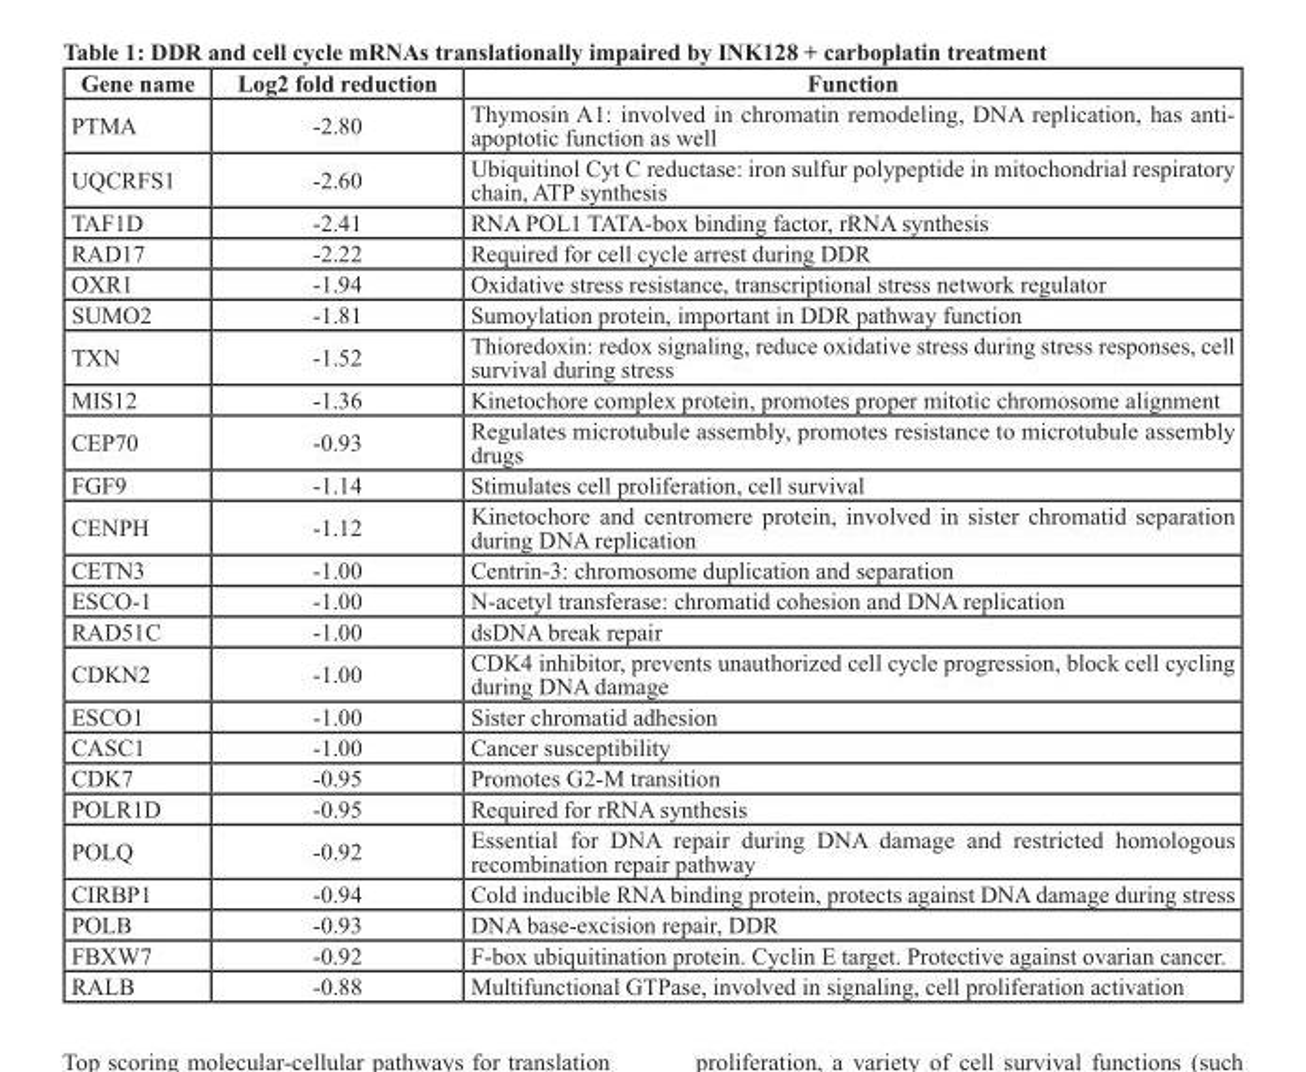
<table><thead><tr><td>Gene name</td><td>Log2 fold reduction</td><td>Function</td></tr></thead><tbody><tr><td>PTMA</td><td>-2.80</td><td>Thymosin A1: involved in chromatin remodeling, DNA replication, has anti- apoptotic function as well</td></tr><tr><td>UQCRFS1</td><td>-2.60</td><td>Ubiquitinol Cyt C reductase: iron sulfur polypeptide in mitochondrial respiratory chain, ATP synthesis</td></tr><tr><td>TAF1D</td><td>-2.41</td><td>RNA POL1 TATA-box binding factor, rRNA synthesis</td></tr><tr><td>RAD17</td><td>-2.22</td><td>Required for cell cycle arrest during DDR</td></tr><tr><td>OXR1</td><td>-1.94</td><td>Oxidative stress resistance, transcriptional stress network regulator</td></tr><tr><td>SUMO2</td><td>-1.81</td><td>Sumoylation protein, important in DDR pathway function</td></tr><tr><td>TXN</td><td>-1.52</td><td>Thioredoxin: redox signaling, reduce oxidative stress during stress responses, cell survival during stress</td></tr><tr><td>MIS12</td><td>-1.36</td><td>Kinetochore complex protein, promotes proper mitotic chromosome alignment</td></tr><tr><td>CEP70</td><td>-0.93</td><td>Regulates microtubule assembly, promotes resistance to microtubule assembly drugs</td></tr><tr><td>FGF9</td><td>-1.14</td><td>Stimulates cell proliferation, cell survival</td></tr><tr><td>CENPH</td><td>-1.12</td><td>Kinetochore and centromere protein, involved in sister chromatid separation during DNA replication</td></tr><tr><td>CETN3</td><td>-1.00</td><td>Centrin-3: chromosome duplication and separation</td></tr><tr><td>ESCO-1</td><td>-1.00</td><td>N-acetyl transferase: chromatid cohesion and DNA replication</td></tr><tr><td>RAD51C</td><td>-1.00</td><td>dsDNA break repair</td></tr><tr><td>CDKN2</td><td>-1.00</td><td>CDK4 inhibitor, prevents unauthorized cell cycle progression, block cell cycling during DNA damage</td></tr><tr><td>ESCO1</td><td>-1.00</td><td>Sister chromatid adhesion</td></tr><tr><td>CASC1</td><td>-1.00</td><td>Cancer susceptibility</td></tr><tr><td>CDK7</td><td>-0.95</td><td>Promotes G2-M transition</td></tr><tr><td>POLR1D</td><td>-0.95</td><td>Required for rRNA synthesis</td></tr><tr><td>POLQ</td><td>-0.92</td><td>Essential for DNA repair during DNA damage and restricted homologous recombination repair pathway</td></tr><tr><td>CIRBP1</td><td>-0.94</td><td>Cold inducible RNA binding protein, protects against DNA damage during stress</td></tr><tr><td>POLB</td><td>-0.93</td><td>DNA base-excision repair, DDR</td></tr><tr><td>FBXW7</td><td>-0.92</td><td>F-box ubiquitination protein. Cyclin E target. Protective against ovarian cancer.</td></tr><tr><td>RALB</td><td>-0.88</td><td>Multifunctional GTPase, involved in signaling, cell proliferation activation</td></tr></tbody></table>